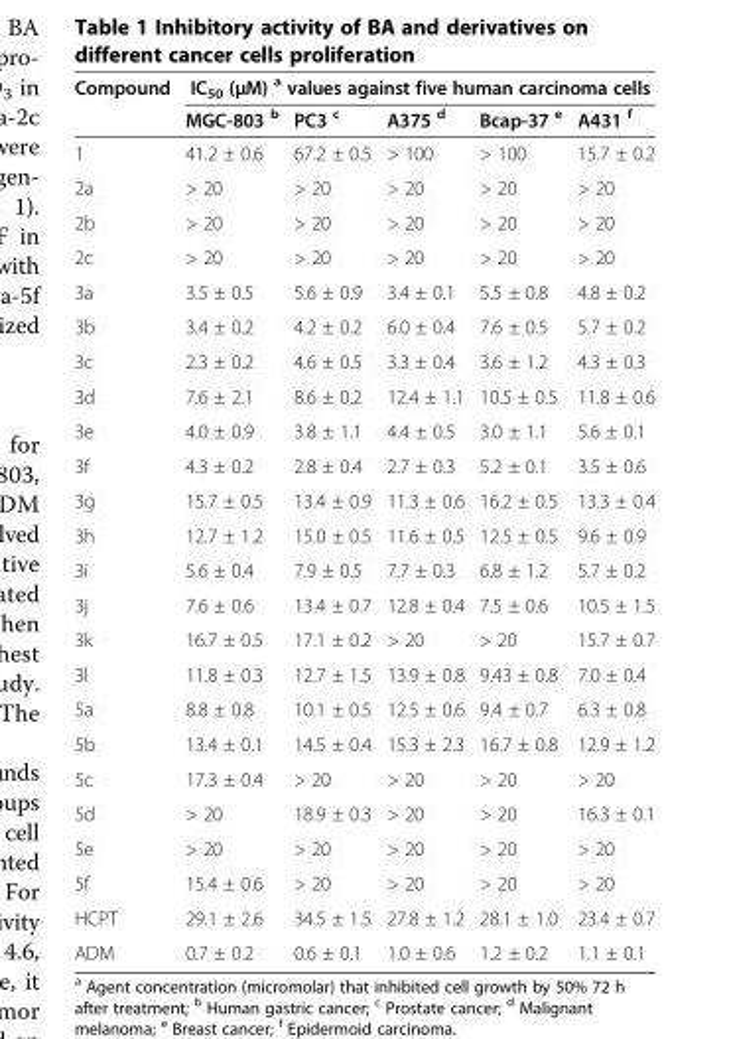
<table><thead><tr><td rowspan="2">Compound</td><td colspan="5">IC<sub>50</sub> (μM) <sup>a</sup> values against five human carcinoma cells</td></tr><tr><td>MGC-803 <sup>b</sup></td><td>PC3 <sup>c</sup></td><td>A375 <sup>d</sup></td><td>Bcap-37 <sup>e</sup></td><td>A431 <sup>f</sup></td></tr></thead><tbody><tr><td>1</td><td>41.2 ± 0.6</td><td>67.2 ± 0.5</td><td>&gt; 100</td><td>&gt; 100</td><td>15.7 ± 0.2</td></tr><tr><td>2a</td><td>&gt; 20</td><td>&gt; 20</td><td>&gt; 20</td><td>&gt; 20</td><td>&gt; 20</td></tr><tr><td>2b</td><td>&gt; 20</td><td>&gt; 20</td><td>&gt; 20</td><td>&gt; 20</td><td>&gt; 20</td></tr><tr><td>2c</td><td>&gt; 20</td><td>&gt; 20</td><td>&gt; 20</td><td>&gt; 20</td><td>&gt; 20</td></tr><tr><td>3a</td><td>3.5 ± 0.5</td><td>5.6 ± 0.9</td><td>3.4 ± 0.1</td><td>5.5 ± 0.8</td><td>4.8 ± 0.2</td></tr><tr><td>3b</td><td>3.4 ± 0.2</td><td>4.2 ± 0.2</td><td>6.0 ± 0.4</td><td>7.6 ± 0.5</td><td>5.7 ± 0.2</td></tr><tr><td>3c</td><td>2.3 ± 0.2</td><td>4.6 ± 0.5</td><td>3.3 ± 0.4</td><td>3.6 ± 1.2</td><td>4.3 ± 0.3</td></tr><tr><td>3d</td><td>7.6 ± 2.1</td><td>8.6 ± 0.2</td><td>12.4 ± 1.1</td><td>10.5 ± 0.5</td><td>11.8 ± 0.6</td></tr><tr><td>3e</td><td>4.0 ± 0.9</td><td>3.8 ± 1.1</td><td>4.4 ± 0.5</td><td>3.0 ± 1.1</td><td>5.6 ± 0.1</td></tr><tr><td>3f</td><td>4.3 ± 0.2</td><td>2.8 ± 0.4</td><td>2.7 ± 0.3</td><td>5.2 ± 0.1</td><td>3.5 ± 0.6</td></tr><tr><td>3g</td><td>15.7 ± 0.5</td><td>13.4 ± 0.9</td><td>11.3 ± 0.6</td><td>16.2 ± 0.5</td><td>13.3 ± 0.4</td></tr><tr><td>3h</td><td>12.7 ± 1.2</td><td>15.0 ± 0.5</td><td>11.6 ± 0.5</td><td>12.5 ± 0.5</td><td>9.6 ± 0.9</td></tr><tr><td>3i</td><td>5.6 ± 0.4</td><td>7.9 ± 0.5</td><td>7.7 ± 0.3</td><td>6.8 ± 1.2</td><td>5.7 ± 0.2</td></tr><tr><td>3j</td><td>7.6 ± 0.6</td><td>13.4 ± 0.7</td><td>12.8 ± 0.4</td><td>7.5 ± 0.6</td><td>10.5 ± 1.5</td></tr><tr><td>3k</td><td>16.7 ± 0.5</td><td>17.1 ± 0.2</td><td>&gt; 20</td><td>&gt; 20</td><td>15.7 ± 0.7</td></tr><tr><td>3l</td><td>11.8 ± 0.3</td><td>12.7 ± 1.5</td><td>13.9 ± 0.8</td><td>9.43 ± 0.8</td><td>7.0 ± 0.4</td></tr><tr><td>5a</td><td>8.8 ± 0.8</td><td>10.1 ± 0.5</td><td>12.5 ± 0.6</td><td>9.4 ± 0.7</td><td>6.3 ± 0.8</td></tr><tr><td>5b</td><td>13.4 ± 0.1</td><td>14.5 ± 0.4</td><td>15.3 ± 2.3</td><td>16.7 ± 0.8</td><td>12.9 ± 1.2</td></tr><tr><td>5c</td><td>17.3 ± 0.4</td><td>&gt; 20</td><td>&gt; 20</td><td>&gt; 20</td><td>&gt; 20</td></tr><tr><td>5d</td><td>&gt; 20</td><td>18.9 ± 0.3</td><td>&gt; 20</td><td>&gt; 20</td><td>16.3 ± 0.1</td></tr><tr><td>5e</td><td>&gt; 20</td><td>&gt; 20</td><td>&gt; 20</td><td>&gt; 20</td><td>&gt; 20</td></tr><tr><td>5f</td><td>15.4 ± 0.6</td><td>&gt; 20</td><td>&gt; 20</td><td>&gt; 20</td><td>&gt; 20</td></tr><tr><td>HCPT</td><td>29.1 ± 2.6</td><td>34.5 ± 1.5</td><td>27.8 ± 1.2</td><td>28.1 ± 1.0</td><td>23.4 ± 0.7</td></tr><tr><td>ADM</td><td>0.7 ± 0.2</td><td>0.6 ± 0.1</td><td>1.0 ± 0.6</td><td>1.2 ± 0.2</td><td>1.1 ± 0.1</td></tr></tbody></table>